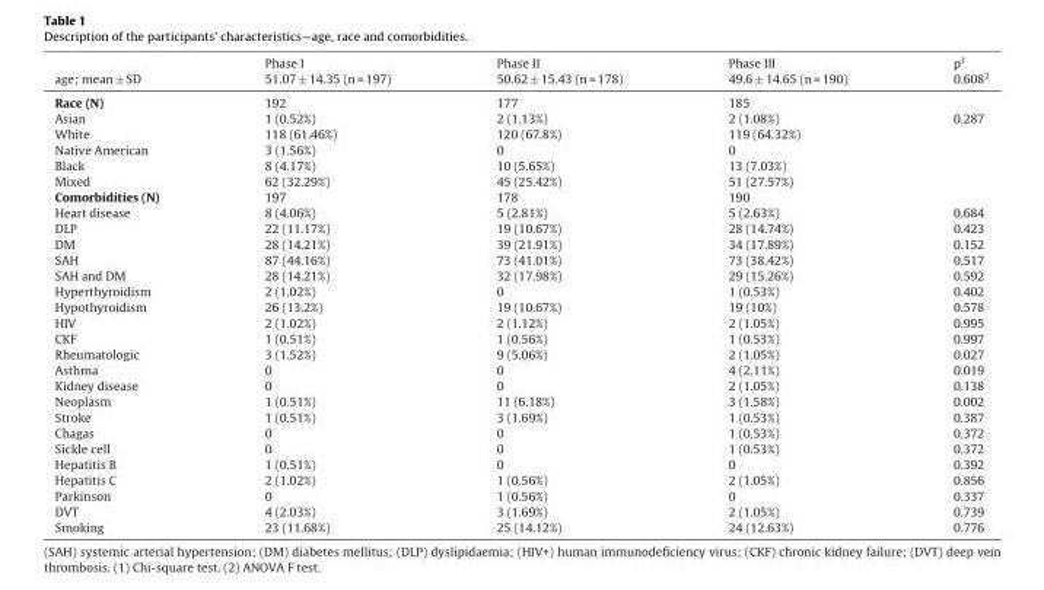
<table><thead><tr><td rowspan="2">age; mean ± SD</td><td rowspan="2">Phase I 51.07 ± 14.35 (n = 197)</td><td rowspan="2">Phase II 50.62 ± 15.43 (n = 178)</td><td rowspan="2">Phase III 49.6 ± 14.65 (n = 190)</td><td rowspan="2">p<sup>1</sup> 0.608<sup>2</sup></td></tr><tr></tr></thead><tbody><tr><td>Race (N)</td><td>192</td><td>177</td><td>185</td><td></td></tr><tr><td>Asian</td><td>1 (0.52%)</td><td>2 (1.13%)</td><td>2 (1.08%)</td><td>0.287</td></tr><tr><td>White</td><td>118 (61.46%)</td><td>120 (67.8%)</td><td>119 (64.32%)</td><td></td></tr><tr><td>Native American</td><td>3 (1.56%)</td><td>0</td><td>0</td><td></td></tr><tr><td>Black</td><td>8 (4.17%)</td><td>10 (5.65%)</td><td>13 (7.03%)</td><td></td></tr><tr><td>Mixed</td><td>62 (32.29%)</td><td>45 (25.42%)</td><td>51 (27.57%)</td><td></td></tr><tr><td>Comorbidities (N)</td><td>197</td><td>178</td><td>190</td><td></td></tr><tr><td>Heart disease</td><td>8 (4.06%)</td><td>5 (2.81%)</td><td>5 (2.63%)</td><td>0.684</td></tr><tr><td>DLP</td><td>22 (11.17%)</td><td>19 (10.67%)</td><td>28 (14.74%)</td><td>0.423</td></tr><tr><td>DM</td><td>28 (14.21%)</td><td>39 (21.91%)</td><td>34 (17.89%)</td><td>0.152</td></tr><tr><td>SAH</td><td>87 (44.16%)</td><td>73 (41.01%)</td><td>73 (38.42%)</td><td>0.517</td></tr><tr><td>SAH and DM</td><td>28 (14.21%)</td><td>32 (17.98%)</td><td>29 (15.26%)</td><td>0.592</td></tr><tr><td>Hyperthyroidism</td><td>2 (1.02%)</td><td>0</td><td>1 (0.53%)</td><td>0.402</td></tr><tr><td>Hypothyroidism</td><td>26 (13.2%)</td><td>19 (10.67%)</td><td>19 (10%)</td><td>0.578</td></tr><tr><td>HIV</td><td>2 (1.02%)</td><td>2 (1.12%)</td><td>2 (1.05%)</td><td>0.995</td></tr><tr><td>CKF</td><td>1 (0.51%)</td><td>1 (0.56%)</td><td>1 (0.53%)</td><td>0.997</td></tr><tr><td>Rheumatologic</td><td>3 (1.52%)</td><td>9 (5.06%)</td><td>2 (1.05%)</td><td>0.027</td></tr><tr><td>Asthma</td><td>0</td><td>0</td><td>4 (2.11%)</td><td>0.019</td></tr><tr><td>Kidney disease</td><td>0</td><td>0</td><td>2 (1.05%)</td><td>0.138</td></tr><tr><td>Neoplasm</td><td>1 (0.51%)</td><td>11 (6.18%)</td><td>3 (1.58%)</td><td>0.002</td></tr><tr><td>Stroke</td><td>1 (0.51%)</td><td>3 (1.69%)</td><td>1 (0.53%)</td><td>0.387</td></tr><tr><td>Chagas</td><td>0</td><td>0</td><td>1 (0.53%)</td><td>0.372</td></tr><tr><td>Sickle cell</td><td>0</td><td>0</td><td>1 (0.53%)</td><td>0.372</td></tr><tr><td>Hepatitis B</td><td>1 (0.51%)</td><td>0</td><td>0</td><td>0.392</td></tr><tr><td>Hepatitis C</td><td>2 (1.02%)</td><td>1 (0.56%)</td><td>2 (1.05%)</td><td>0.856</td></tr><tr><td>Parkinson</td><td>0</td><td>1 (0.56%)</td><td>0</td><td>0.337</td></tr><tr><td>DVT</td><td>4 (2.03%)</td><td>3 (1.69%)</td><td>2 (1.05%)</td><td>0.739</td></tr><tr><td>Smoking</td><td>23 (11.68%)</td><td>25 (14.12%)</td><td>24 (12.63%)</td><td>0.776</td></tr></tbody></table>